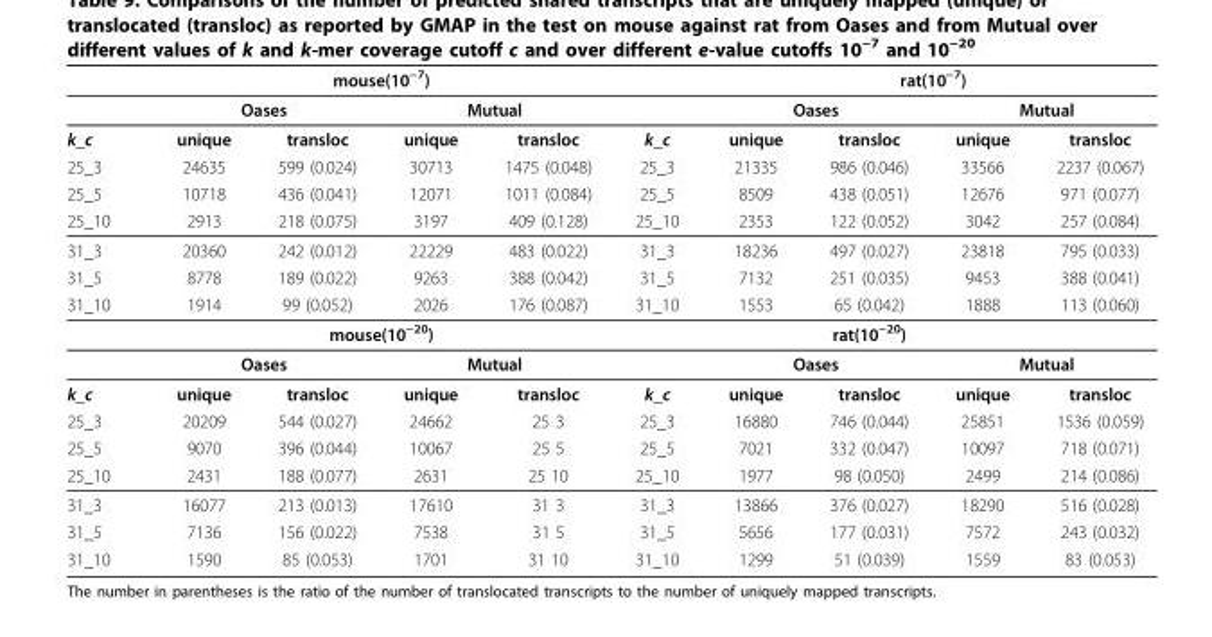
<table><thead><tr><td rowspan="3">k_c</td><td colspan="4">mouse(10<sup>−7</sup>)</td><td rowspan="3">k_c</td><td colspan="4">rat(10<sup>−7</sup>)</td></tr><tr><td colspan="2">Oases</td><td colspan="2">Mutual</td><td colspan="2">Oases</td><td colspan="2">Mutual</td></tr><tr><td>unique</td><td>transloc</td><td>unique</td><td>transloc</td><td>unique</td><td>transloc</td><td>unique</td><td>transloc</td></tr></thead><tbody><tr><td>25_3</td><td>24635</td><td>599 (0.024)</td><td>30713</td><td>1475 (0.048)</td><td>25_3</td><td>21335</td><td>986 (0.046)</td><td>33566</td><td>2237 (0.067)</td></tr><tr><td>25_5</td><td>10718</td><td>436 (0.041)</td><td>12071</td><td>1011 (0.084)</td><td>25_5</td><td>8509</td><td>438 (0.051)</td><td>12676</td><td>971 (0.077)</td></tr><tr><td>25_10</td><td>2913</td><td>218 (0.075)</td><td>3197</td><td>409 (0.128)</td><td>25_10</td><td>2353</td><td>122 (0.052)</td><td>3042</td><td>257 (0.084)</td></tr><tr><td>31_3</td><td>20360</td><td>242 (0.012)</td><td>22229</td><td>483 (0.022)</td><td>31_3</td><td>18236</td><td>497 (0.027)</td><td>23818</td><td>795 (0.033)</td></tr><tr><td>31_5</td><td>8778</td><td>189 (0.022)</td><td>9263</td><td>388 (0.042)</td><td>31_5</td><td>7132</td><td>251 (0.035)</td><td>9453</td><td>388 (0.041)</td></tr><tr><td rowspan="3">31_10</td><td>1914</td><td>99 (0.052)</td><td>2026</td><td>176 (0.087)</td><td>31_10</td><td>1553</td><td>65 (0.042)</td><td>1888</td><td>113 (0.060)</td></tr><tr><td colspan="4">mouse(10<sup>−20</sup>)</td><td></td><td></td><td>rat(10<sup>−20</sup>)</td><td></td><td></td></tr><tr><td colspan="2">Oases</td><td colspan="2">Mutual</td><td></td><td colspan="2">Oases</td><td colspan="2">Mutual</td></tr><tr><td>k_c</td><td>unique</td><td>transloc</td><td>unique</td><td>transloc</td><td>k_c</td><td>unique</td><td>transloc</td><td>unique</td><td>transloc</td></tr><tr><td>25_3</td><td>20209</td><td>544 (0.027)</td><td>24662</td><td>25 3</td><td>25_3</td><td>16880</td><td>746 (0.044)</td><td>25851</td><td>1536 (0.059)</td></tr><tr><td>25_5</td><td>9070</td><td>396 (0.044)</td><td>10067</td><td>25 5</td><td>25_5</td><td>7021</td><td>332 (0.047)</td><td>10097</td><td>718 (0.071)</td></tr><tr><td>25_10</td><td>2431</td><td>188 (0.077)</td><td>2631</td><td>25 10</td><td>25_10</td><td>1977</td><td>98 (0.050)</td><td>2499</td><td>214 (0.086)</td></tr><tr><td>31_3</td><td>16077</td><td>213 (0.013)</td><td>17610</td><td>31 3</td><td>31_3</td><td>13866</td><td>376 (0.027)</td><td>18290</td><td>516 (0.028)</td></tr><tr><td>31_5</td><td>7136</td><td>156 (0.022)</td><td>7538</td><td>31 5</td><td>31_5</td><td>5656</td><td>177 (0.031)</td><td>7572</td><td>243 (0.032)</td></tr><tr><td>31_10</td><td>1590</td><td>85 (0.053)</td><td>1701</td><td>31 10</td><td>31_10</td><td>1299</td><td>51 (0.039)</td><td>1559</td><td>83 (0.053)</td></tr></tbody></table>